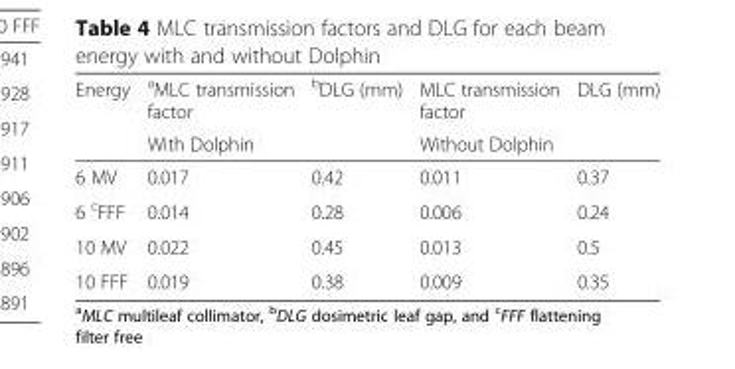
<table><thead><tr><td rowspan="2">Energy</td><td><sup>a</sup>MLC transmission factor</td><td><sup>b</sup>DLG (mm)</td><td>MLC transmission factor</td><td>DLG (mm)</td></tr><tr><td colspan="2">With Dolphin</td><td colspan="2">Without Dolphin</td></tr></thead><tbody><tr><td>6 MV</td><td>0.017</td><td>0.42</td><td>0.011</td><td>0.37</td></tr><tr><td>6 <sup>c</sup>FFF</td><td>0.014</td><td>0.28</td><td>0.006</td><td>0.24</td></tr><tr><td>10 MV</td><td>0.022</td><td>0.45</td><td>0.013</td><td>0.5</td></tr><tr><td>10 FFF</td><td>0.019</td><td>0.38</td><td>0.009</td><td>0.35</td></tr></tbody></table>